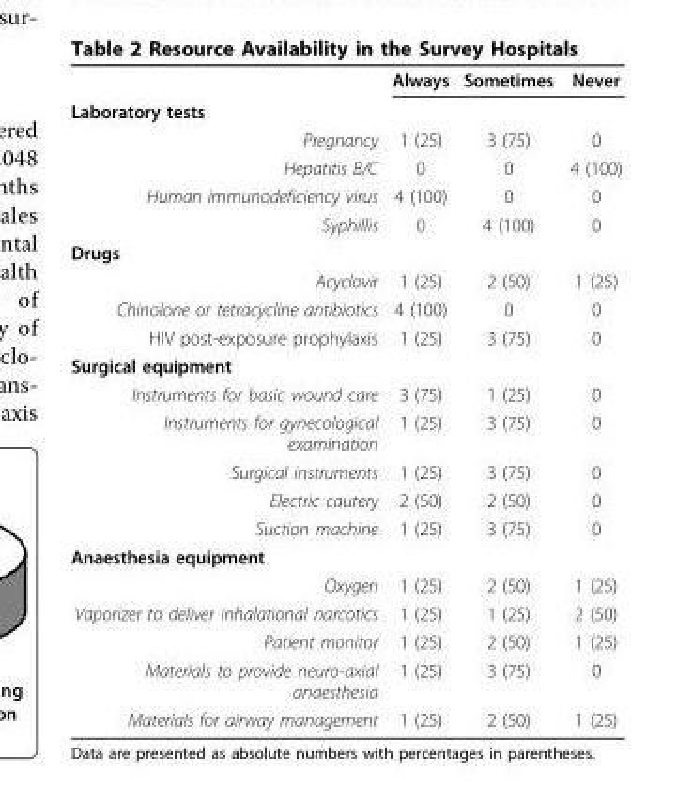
<table><thead><tr><td></td><td>Always</td><td>Sometimes</td><td>Never</td></tr></thead><tbody><tr><td colspan="4">Laboratory tests</td></tr><tr><td>Pregnancy</td><td>1 (25)</td><td>3 (75)</td><td>0</td></tr><tr><td>Hepatitis B/C</td><td>0</td><td>0</td><td>4 (100)</td></tr><tr><td>Human immunodeficiency virus</td><td>4 (100)</td><td>0</td><td>0</td></tr><tr><td>Syphillis</td><td>0</td><td>4 (100)</td><td>0</td></tr><tr><td colspan="4">Drugs</td></tr><tr><td>Acyclovir</td><td>1 (25)</td><td>2 (50)</td><td>1 (25)</td></tr><tr><td>Chinolone or tetracycline antibiotics</td><td>4 (100)</td><td>0</td><td>0</td></tr><tr><td>HIV post-exposure prophylaxis</td><td>1 (25)</td><td>3 (75)</td><td>0</td></tr><tr><td colspan="4">Surgical equipment</td></tr><tr><td>Instruments for basic wound care</td><td>3 (75)</td><td>1 (25)</td><td>0</td></tr><tr><td>Instruments for gynecological examination</td><td>1 (25)</td><td>3 (75)</td><td>0</td></tr><tr><td>Surgical instruments</td><td>1 (25)</td><td>3 (75)</td><td>0</td></tr><tr><td>Electric cautery</td><td>2 (50)</td><td>2 (50)</td><td>0</td></tr><tr><td>Suction machine</td><td>1 (25)</td><td>3 (75)</td><td>0</td></tr><tr><td colspan="4">Anaesthesia equipment</td></tr><tr><td>Oxygen</td><td>1 (25)</td><td>2 (50)</td><td>1 (25)</td></tr><tr><td>Vaporizer to deliver inhalational narcotics</td><td>1 (25)</td><td>1 (25)</td><td>2 (50)</td></tr><tr><td>Patient monitor</td><td>1 (25)</td><td>2 (50)</td><td>1 (25)</td></tr><tr><td>Materials to provide neuro-axial anaesthesia</td><td>1 (25)</td><td>3 (75)</td><td>0</td></tr><tr><td>Materials for airway management</td><td>1 (25)</td><td>2 (50)</td><td>1 (25)</td></tr></tbody></table>